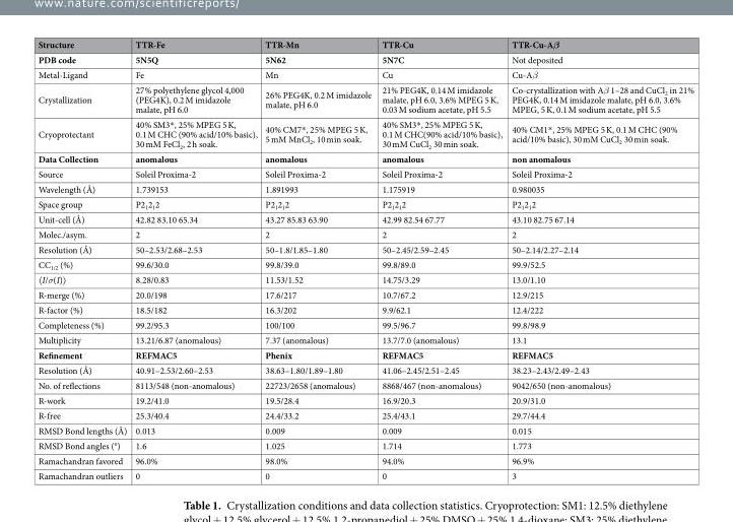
<table><thead><tr><td>Structure</td><td>TTR-Fe</td><td>TTR-Mn</td><td>TTR-Cu</td><td>TTR-Cu-Aβ</td></tr></thead><tbody><tr><td>PDB code</td><td>5N5Q</td><td>5N62</td><td>5N7C</td><td>Not deposited</td></tr><tr><td>Metal-Ligand</td><td>Fe</td><td>Mn</td><td>Cu</td><td>Cu-Aβ</td></tr><tr><td>Crystallization</td><td>27% polyethylene glycol 4,000 (PEG4K), 0.2 M imidazole malate, pH 6.0</td><td>26% PEG4K, 0.2 M imidazole malate, pH 6.0</td><td>21% PEG4K, 0.14 M imidazole malate, pH 6.0, 3.6% MPEG 5 K, 0.03 M sodium acetate, pH 5.5</td><td>Co-crystallization with Aβ 1–28 and CuCl<sub>2</sub> in 21% PEG4K, 0.14 M imidazole malate, pH 6.0, 3.6% MPEG, 5 K, 0.1 M sodium acetate, pH 5.5</td></tr><tr><td>Cryoprotectant</td><td>40% SM3*, 25% MPEG 5 K, 0.1 M CHC (90% acid/10% basic), 30 mM FeCl<sub>2</sub>, 2 h soak.</td><td>40% CM7*, 25% MPEG 5 K, 5 mM MnCl<sub>2</sub>, 10 min soak.</td><td>40% SM3*, 25% MPEG 5 K, 0.1 M CHC(90% acid/10% basic), 30 mM CuCl<sub>2</sub> 30 min soak.</td><td>40% CM1*, 25% MPEG 5 K, 0.1 M CHC (90% acid/10% basic), 30 mM CuCl<sub>2</sub> 30 min soak.</td></tr><tr><td>Data Collection</td><td>anomalous</td><td>anomalous</td><td>anomalous</td><td>non anomalous</td></tr><tr><td>Source</td><td>Soleil Proxima-2</td><td>Soleil Proxima-2</td><td>Soleil Proxima-2</td><td>Soleil Proxima-2</td></tr><tr><td>Wavelength (Å)</td><td>1.739153</td><td>1.891993</td><td>1.175919</td><td>0.980035</td></tr><tr><td>Space group</td><td>P2<sub>1</sub>2<sub>1</sub>2</td><td>P2<sub>1</sub>2<sub>1</sub>2</td><td>P2<sub>1</sub>2<sub>1</sub>2</td><td>P2<sub>1</sub>2<sub>1</sub>2</td></tr><tr><td>Unit-cell (Å)</td><td>42.82 83.10 65.34</td><td>43.27 85.83 63.90</td><td>42.99 82.54 67.77</td><td>43.10 82.75 67.14</td></tr><tr><td>Molec./asym.</td><td>2</td><td>2</td><td>2</td><td>2</td></tr><tr><td>Resolution (Å)</td><td>50–2.53/2.68–2.53</td><td>50–1.8/1.85–1.80</td><td>50–2.45/2.59–2.45</td><td>50–2.14/2.27–2.14</td></tr><tr><td>CC<sub>1/2</sub> (%)</td><td>99.6/30.0</td><td>99.8/39.0</td><td>99.8/89.0</td><td>99.9/52.5</td></tr><tr><td>〈I/σ(I)〉</td><td>8.28/0.83</td><td>11.53/1.52</td><td>14.75/3.29</td><td>13.0/1.10</td></tr><tr><td>R-merge (%)</td><td>20.0/198</td><td>17.6/217</td><td>10.7/67.2</td><td>12.9/215</td></tr><tr><td>R-factor (%)</td><td>18.5/182</td><td>16.3/202</td><td>9.9/62.1</td><td>12.4/222</td></tr><tr><td>Completeness (%)</td><td>99.2/95.3</td><td>100/100</td><td>99.5/96.7</td><td>99.8/98.9</td></tr><tr><td>Multiplicity</td><td>13.21/6.87 (anomalous)</td><td>7.37 (anomalous)</td><td>13.7/7.0 (anomalous)</td><td>13.1</td></tr><tr><td>Refinement</td><td>REFMAC5</td><td>Phenix</td><td>REFMAC5</td><td>REFMAC5</td></tr><tr><td>Resolution (Å)</td><td>40.91–2.53/2.60–2.53</td><td>38.63–1.80/1.89–1.80</td><td>41.06–2.45/2.51–2.45</td><td>38.23–2.43/2.49–2.43</td></tr><tr><td>No. of reflections</td><td>8113/548 (non-anomalous)</td><td>22723/2658 (anomalous)</td><td>8868/467 (non-anomalous)</td><td>9042/650 (non-anomalous)</td></tr><tr><td>R-work</td><td>19.2/41.0</td><td>19.5/28.4</td><td>16.9/20.3</td><td>20.9/31.0</td></tr><tr><td>R-free</td><td>25.3/40.4</td><td>24.4/33.2</td><td>25.4/43.1</td><td>29.7/44.4</td></tr><tr><td>RMSD Bond lengths (Å)</td><td>0.013</td><td>0.009</td><td>0.009</td><td>0.015</td></tr><tr><td>RMSD Bond angles (°)</td><td>1.6</td><td>1.025</td><td>1.714</td><td>1.773</td></tr><tr><td>Ramachandran favored</td><td>96.0%</td><td>98.0%</td><td>94.0%</td><td>96.9%</td></tr><tr><td>Ramachandran outliers</td><td>0</td><td>0</td><td>0</td><td>3</td></tr></tbody></table>